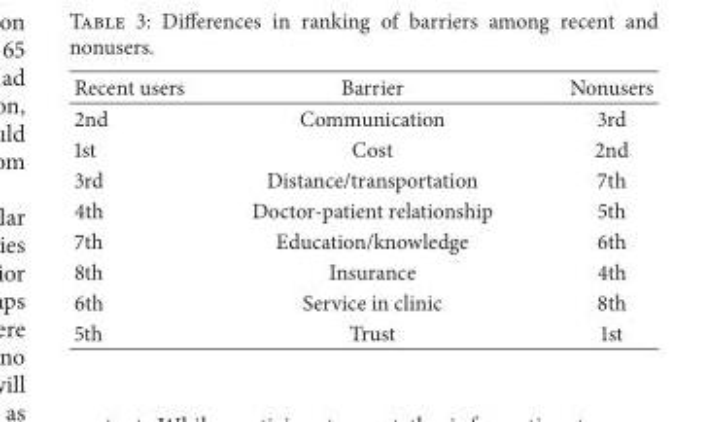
<table><thead><tr><td>Recent users</td><td>Barrier</td><td>Nonusers</td></tr></thead><tbody><tr><td>2nd</td><td>Communication</td><td>3rd</td></tr><tr><td>1st</td><td>Cost</td><td>2nd</td></tr><tr><td>3rd</td><td>Distance/transportation</td><td>7th</td></tr><tr><td>4th</td><td>Doctor-patient relationship</td><td>5th</td></tr><tr><td>7th</td><td>Education/knowledge</td><td>6th</td></tr><tr><td>8th</td><td>Insurance</td><td>4th</td></tr><tr><td>6th</td><td>Service in clinic</td><td>8th</td></tr><tr><td>5th</td><td>Trust</td><td>1st</td></tr></tbody></table>